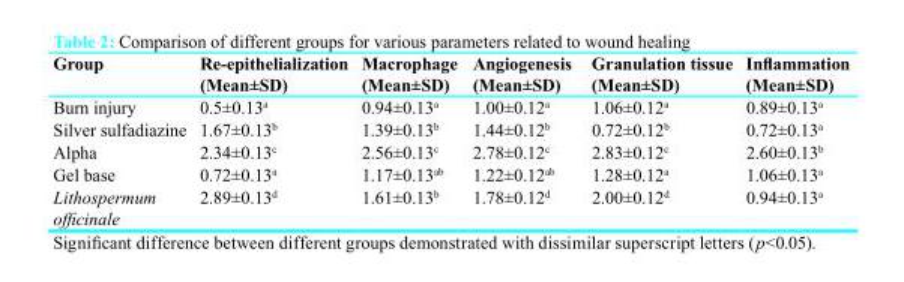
<table><thead><tr><td>Group</td><td>Re-epithelialization (Mean±SD)</td><td>Macrophage (Mean±SD)</td><td>Angiogenesis (Mean±SD)</td><td>Granulation tissue (Mean±SD)</td><td>Inflammation (Mean±SD)</td></tr></thead><tbody><tr><td>Burn injury</td><td>0.5±0.13<sup>a</sup></td><td>0.94±0.13<sup>a</sup></td><td>1.00±0.12<sup>a</sup></td><td>1.06±0.12<sup>a</sup></td><td>0.89±0.13<sup>a</sup></td></tr><tr><td>Silver sulfadiazine</td><td>1.67±0.13<sup>b</sup></td><td>1.39±0.13<sup>b</sup></td><td>1.44±0.12<sup>b</sup></td><td>0.72±0.12<sup>b</sup></td><td>0.72±0.13<sup>a</sup></td></tr><tr><td>Alpha</td><td>2.34±0.13<sup>c</sup></td><td>2.56±0.13<sup>c</sup></td><td>2.78±0.12<sup>c</sup></td><td>2.83±0.12<sup>c</sup></td><td>2.60±0.13<sup>b</sup></td></tr><tr><td>Gel base</td><td>0.72±0.13<sup>a</sup></td><td>1.17±0.13<sup>ab</sup></td><td>1.22±0.12<sup>ab</sup></td><td>1.28±0.12<sup>a</sup></td><td>1.06±0.13<sup>a</sup></td></tr><tr><td>Lithospermum officinale</td><td>2.89±0.13<sup>d</sup></td><td>1.61±0.13<sup>b</sup></td><td>1.78±0.12<sup>d</sup></td><td>2.00±0.12<sup>d</sup></td><td>0.94±0.13<sup>a</sup></td></tr></tbody></table>